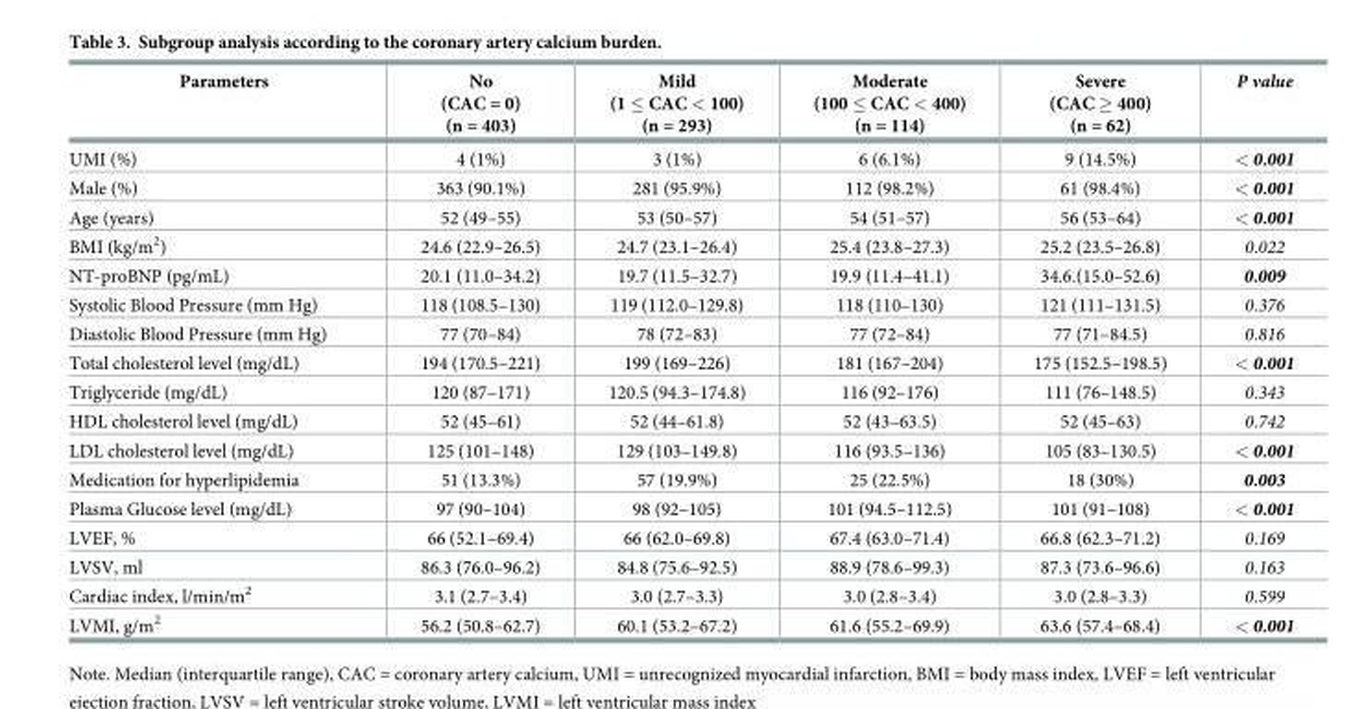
<table><thead><tr><td>Parameters</td><td>No (CAC = 0) (n = 403)</td><td>Mild (1 ≤ CAC &lt; 100) (n = 293)</td><td>Moderate (100 ≤ CAC &lt; 400) (n = 114)</td><td>Severe (CAC ≥ 400) (n = 62)</td><td>P value</td></tr></thead><tbody><tr><td>UMI (%)</td><td>4 (1%)</td><td>3 (1%)</td><td>6 (6.1%)</td><td>9 (14.5%)</td><td>&lt; 0.001</td></tr><tr><td>Male (%)</td><td>363 (90.1%)</td><td>281 (95.9%)</td><td>112 (98.2%)</td><td>61 (98.4%)</td><td>&lt; 0.001</td></tr><tr><td>Age (years)</td><td>52 (49–55)</td><td>53 (50–57)</td><td>54 (51–57)</td><td>56 (53–64)</td><td>&lt; 0.001</td></tr><tr><td>BMI (kg/m<sup>2</sup>)</td><td>24.6 (22.9–26.5)</td><td>24.7 (23.1–26.4)</td><td>25.4 (23.8–27.3)</td><td>25.2 (23.5–26.8)</td><td>0.022</td></tr><tr><td>NT-proBNP (pg/mL)</td><td>20.1 (11.0–34.2)</td><td>19.7 (11.5–32.7)</td><td>19.9 (11.4–41.1)</td><td>34.6.(15.0–52.6)</td><td>0.009</td></tr><tr><td>Systolic Blood Pressure (mm Hg)</td><td>118 (108.5–130)</td><td>119 (112.0–129.8)</td><td>118 (110–130)</td><td>121 (111–131.5)</td><td>0.376</td></tr><tr><td>Diastolic Blood Pressure (mm Hg)</td><td>77 (70–84)</td><td>78 (72–83)</td><td>77 (72–84)</td><td>77 (71–84.5)</td><td>0.816</td></tr><tr><td>Total cholesterol level (mg/dL)</td><td>194 (170.5–221)</td><td>199 (169–226)</td><td>181 (167–204)</td><td>175 (152.5–198.5)</td><td>&lt; 0.001</td></tr><tr><td>Triglyceride (mg/dL)</td><td>120 (87–171)</td><td>120.5 (94.3–174.8)</td><td>116 (92–176)</td><td>111 (76–148.5)</td><td>0.343</td></tr><tr><td>HDL cholesterol level (mg/dL)</td><td>52 (45–61)</td><td>52 (44–61.8)</td><td>52 (43–63.5)</td><td>52 (45–63)</td><td>0.742</td></tr><tr><td>LDL cholesterol level (mg/dL)</td><td>125 (101–148)</td><td>129 (103–149.8)</td><td>116 (93.5–136)</td><td>105 (83–130.5)</td><td>&lt; 0.001</td></tr><tr><td>Medication for hyperlipidemia</td><td>51 (13.3%)</td><td>57 (19.9%)</td><td>25 (22.5%)</td><td>18 (30%)</td><td>0.003</td></tr><tr><td>Plasma Glucose level (mg/dL)</td><td>97 (90–104)</td><td>98 (92–105)</td><td>101 (94.5–112.5)</td><td>101 (91–108)</td><td>&lt; 0.001</td></tr><tr><td>LVEF, %</td><td>66 (52.1–69.4)</td><td>66 (62.0–69.8)</td><td>67.4 (63.0–71.4)</td><td>66.8 (62.3–71.2)</td><td>0.169</td></tr><tr><td>LVSV, ml</td><td>86.3 (76.0–96.2)</td><td>84.8 (75.6–92.5)</td><td>88.9 (78.6–99.3)</td><td>87.3 (73.6–96.6)</td><td>0.163</td></tr><tr><td>Cardiac index, l/min/m<sup>2</sup></td><td>3.1 (2.7–3.4)</td><td>3.0 (2.7–3.3)</td><td>3.0 (2.8–3.4)</td><td>3.0 (2.8–3.3)</td><td>0.599</td></tr><tr><td>LVMI, g/m<sup>2</sup></td><td>56.2 (50.8–62.7)</td><td>60.1 (53.2–67.2)</td><td>61.6 (55.2–69.9)</td><td>63.6 (57.4–68.4)</td><td>&lt; 0.001</td></tr></tbody></table>